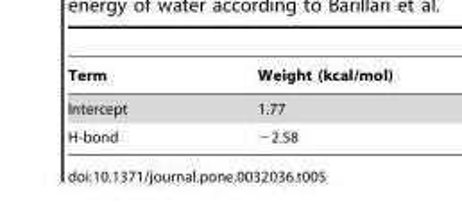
<table><thead><tr><td>Term</td><td>Weight (kcal/mol)</td></tr></thead><tbody><tr><td>Intercept</td><td>1.77</td></tr><tr><td>H-bond</td><td>−2.58</td></tr></tbody></table>